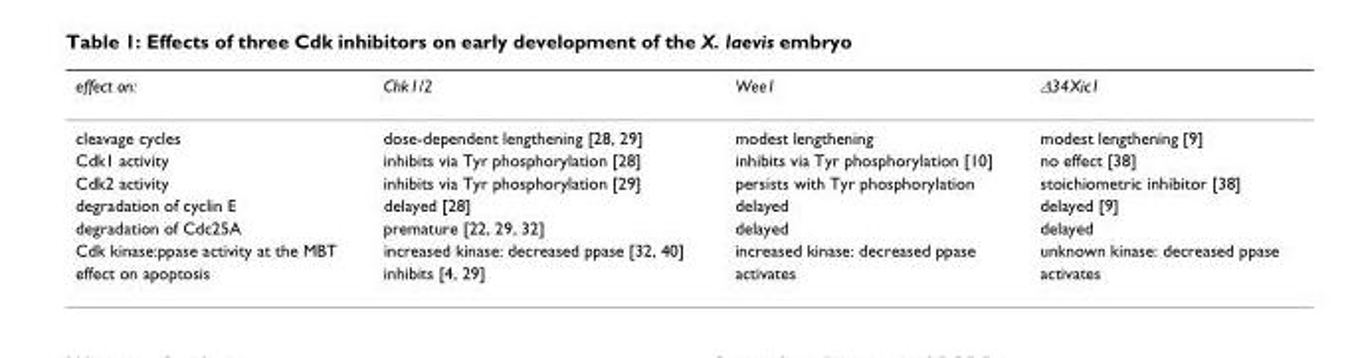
<table><thead><tr><td>effect on:</td><td>Chk1/2</td><td>Wee1</td><td>∆34Xic1</td></tr></thead><tbody><tr><td>cleavage cycles</td><td>dose-dependent lengthening [28, 29]</td><td>modest lengthening</td><td>modest lengthening [9]</td></tr><tr><td>Cdk1 activity</td><td>inhibits via Tyr phosphorylation [28]</td><td>inhibits via Tyr phosphorylation [10]</td><td>no effect [38]</td></tr><tr><td>Cdk2 activity</td><td>inhibits via Tyr phosphorylation [29]</td><td>persists with Tyr phosphorylation</td><td>stoichiometric inhibitor [38]</td></tr><tr><td>degradation of cyclin E</td><td>delayed [28]</td><td>delayed</td><td>delayed [9]</td></tr><tr><td>degradation of Cdc25A</td><td>premature [22, 29, 32]</td><td>delayed</td><td>delayed</td></tr><tr><td>Cdk kinase:ppase activity at the MBT</td><td>increased kinase: decreased ppase [32, 40]</td><td>increased kinase: decreased ppase</td><td>unknown kinase: decreased ppase</td></tr><tr><td>effect on apoptosis</td><td>inhibits [4, 29]</td><td>activates</td><td>activates</td></tr></tbody></table>